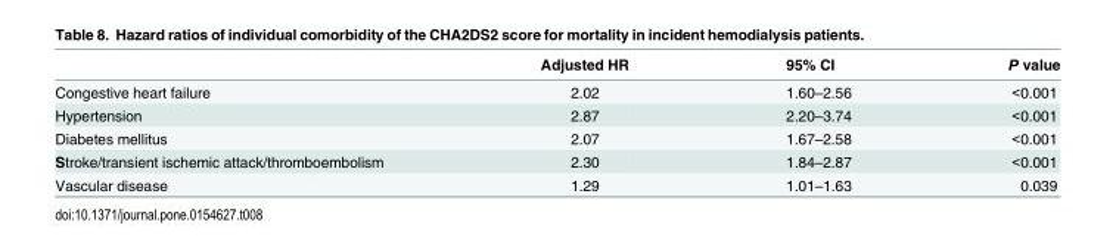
<table><thead><tr><td></td><td>Adjusted HR</td><td>95% CI</td><td>P value</td></tr></thead><tbody><tr><td>Congestive heart failure</td><td>2.02</td><td>1.60–2.56</td><td>&lt;0.001</td></tr><tr><td>Hypertension</td><td>2.87</td><td>2.20–3.74</td><td>&lt;0.001</td></tr><tr><td>Diabetes mellitus</td><td>2.07</td><td>1.67–2.58</td><td>&lt;0.001</td></tr><tr><td>Stroke/transient ischemic attack/thromboembolism</td><td>2.30</td><td>1.84–2.87</td><td>&lt;0.001</td></tr><tr><td>Vascular disease</td><td>1.29</td><td>1.01–1.63</td><td>0.039</td></tr></tbody></table>